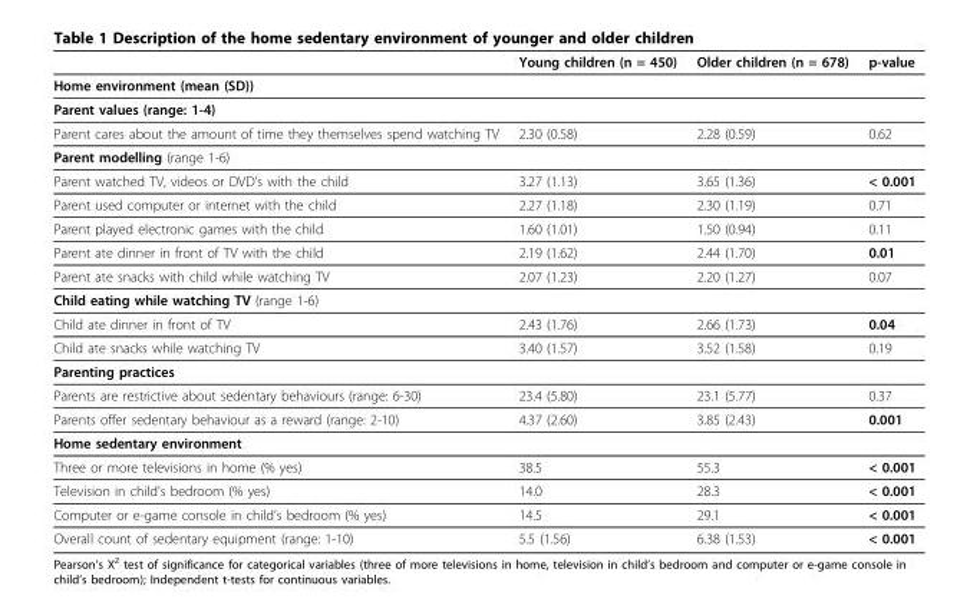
<table><thead><tr><td></td><td>Young children (n = 450)</td><td>Older children (n = 678)</td><td>p-value</td></tr></thead><tbody><tr><td colspan="4">Home environment (mean (SD))</td></tr><tr><td colspan="4">Parent values (range: 1-4)</td></tr><tr><td>Parent cares about the amount of time they themselves spend watching TV</td><td>2.30 (0.58)</td><td>2.28 (0.59)</td><td>0.62</td></tr><tr><td colspan="4">Parent modelling (range 1-6)</td></tr><tr><td>Parent watched TV, videos or DVD’s with the child</td><td>3.27 (1.13)</td><td>3.65 (1.36)</td><td>&lt; 0.001</td></tr><tr><td>Parent used computer or internet with the child</td><td>2.27 (1.18)</td><td>2.30 (1.19)</td><td>0.71</td></tr><tr><td>Parent played electronic games with the child</td><td>1.60 (1.01)</td><td>1.50 (0.94)</td><td>0.11</td></tr><tr><td>Parent ate dinner in front of TV with the child</td><td>2.19 (1.62)</td><td>2.44 (1.70)</td><td>0.01</td></tr><tr><td>Parent ate snacks with child while watching TV</td><td>2.07 (1.23)</td><td>2.20 (1.27)</td><td>0.07</td></tr><tr><td colspan="4">Child eating while watching TV (range 1-6)</td></tr><tr><td>Child ate dinner in front of TV</td><td>2.43 (1.76)</td><td>2.66 (1.73)</td><td>0.04</td></tr><tr><td>Child ate snacks while watching TV</td><td>3.40 (1.57)</td><td>3.52 (1.58)</td><td>0.19</td></tr><tr><td colspan="4">Parenting practices</td></tr><tr><td>Parents are restrictive about sedentary behaviours (range: 6-30)</td><td>23.4 (5.80)</td><td>23.1 (5.77)</td><td>0.37</td></tr><tr><td>Parents offer sedentary behaviour as a reward (range: 2-10)</td><td>4.37 (2.60)</td><td>3.85 (2.43)</td><td>0.001</td></tr><tr><td colspan="4">Home sedentary environment</td></tr><tr><td>Three or more televisions in home (% yes)</td><td>38.5</td><td>55.3</td><td>&lt; 0.001</td></tr><tr><td>Television in child’s bedroom (% yes)</td><td>14.0</td><td>28.3</td><td>&lt; 0.001</td></tr><tr><td>Computer or e-game console in child’s bedroom (% yes)</td><td>14.5</td><td>29.1</td><td>&lt; 0.001</td></tr><tr><td>Overall count of sedentary equipment (range: 1-10)</td><td>5.5 (1.56)</td><td>6.38 (1.53)</td><td>&lt; 0.001</td></tr></tbody></table>